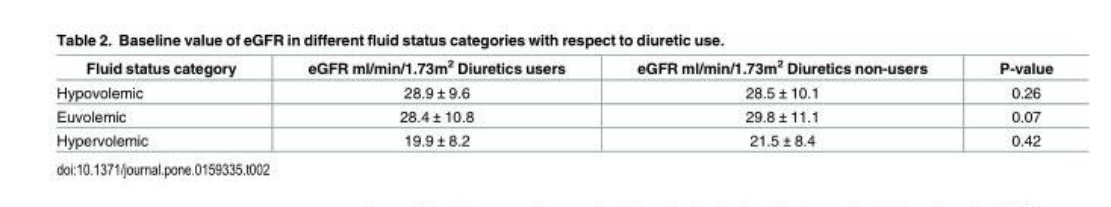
<table><thead><tr><td>Fluid status category</td><td>eGFR ml/min/1.73m<sup>2</sup> Diuretics users</td><td>eGFR ml/min/1.73m<sup>2</sup> Diuretics non-users</td><td>P-value</td></tr></thead><tbody><tr><td>Hypovolemic</td><td>28.9 ± 9.6</td><td>28.5 ± 10.1</td><td>0.26</td></tr><tr><td>Euvolemic</td><td>28.4 ± 10.8</td><td>29.8 ± 11.1</td><td>0.07</td></tr><tr><td>Hypervolemic</td><td>19.9 ± 8.2</td><td>21.5 ± 8.4</td><td>0.42</td></tr></tbody></table>